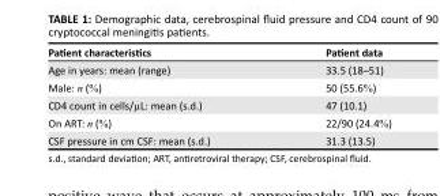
<table><thead><tr><td>Patient characteristics</td><td>Patient data</td></tr></thead><tbody><tr><td>Age in years: mean (range)</td><td>33.5 (18–51)</td></tr><tr><td>Male: n (%)</td><td>50 (55.6%)</td></tr><tr><td>CD4 count in cells/µL: mean (s.d.)</td><td>47 (10.1)</td></tr><tr><td>On ART: n (%)</td><td>22/90 (24.4%)</td></tr><tr><td>CSF pressure in cm CSF: mean (s.d.)</td><td>31.3 (13.5)</td></tr></tbody></table>